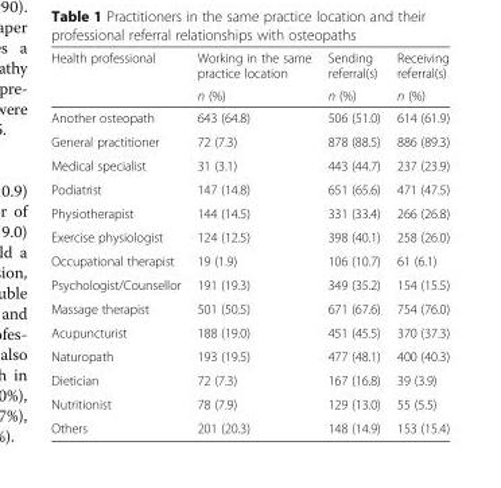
<table><thead><tr><td rowspan="2">Health professional</td><td rowspan="2">Working in the same practice location n (%)</td><td rowspan="2">Sending referral(s) n (%)</td><td rowspan="2">Receiving referral(s) n (%)</td></tr><tr></tr></thead><tbody><tr><td>Another osteopath</td><td>643 (64.8)</td><td>506 (51.0)</td><td>614 (61.9)</td></tr><tr><td>General practitioner</td><td>72 (7.3)</td><td>878 (88.5)</td><td>886 (89.3)</td></tr><tr><td>Medical specialist</td><td>31 (3.1)</td><td>443 (44.7)</td><td>237 (23.9)</td></tr><tr><td>Podiatrist</td><td>147 (14.8)</td><td>651 (65.6)</td><td>471 (47.5)</td></tr><tr><td>Physiotherapist</td><td>144 (14.5)</td><td>331 (33.4)</td><td>266 (26.8)</td></tr><tr><td>Exercise physiologist</td><td>124 (12.5)</td><td>398 (40.1)</td><td>258 (26.0)</td></tr><tr><td>Occupational therapist</td><td>19 (1.9)</td><td>106 (10.7)</td><td>61 (6.1)</td></tr><tr><td>Psychologist/Counsellor</td><td>191 (19.3)</td><td>349 (35.2)</td><td>154 (15.5)</td></tr><tr><td>Massage therapist</td><td>501 (50.5)</td><td>671 (67.6)</td><td>754 (76.0)</td></tr><tr><td>Acupuncturist</td><td>188 (19.0)</td><td>451 (45.5)</td><td>370 (37.3)</td></tr><tr><td>Naturopath</td><td>193 (19.5)</td><td>477 (48.1)</td><td>400 (40.3)</td></tr><tr><td>Dietician</td><td>72 (7.3)</td><td>167 (16.8)</td><td>39 (3.9)</td></tr><tr><td>Nutritionist</td><td>78 (7.9)</td><td>129 (13.0)</td><td>55 (5.5)</td></tr><tr><td>Others</td><td>201 (20.3)</td><td>148 (14.9)</td><td>153 (15.4)</td></tr></tbody></table>